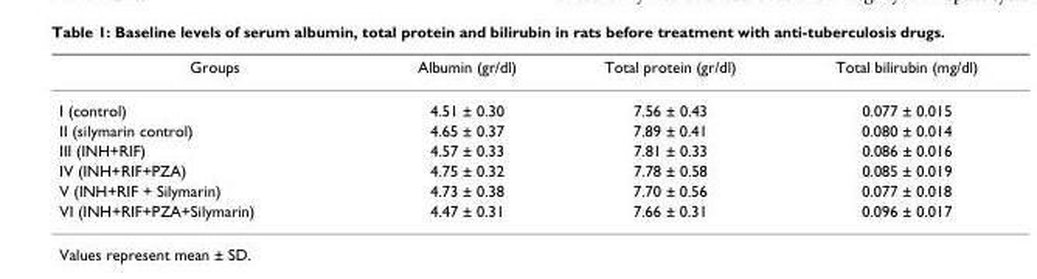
<table><thead><tr><td>Groups</td><td>Albumin (gr/dl)</td><td>Total protein (gr/dl)</td><td>Total bilirubin (mg/dl)</td></tr></thead><tbody><tr><td>I (control)</td><td>4.51 ± 0.30</td><td>7.56 ± 0.43</td><td>0.077 ± 0.015</td></tr><tr><td>II (silymarin control)</td><td>4.65 ± 0.37</td><td>7.89 ± 0.41</td><td>0.080 ± 0.014</td></tr><tr><td>III (INH+RIF)</td><td>4.57 ± 0.33</td><td>7.81 ± 0.33</td><td>0.086 ± 0.016</td></tr><tr><td>IV (INH+RIF+PZA)</td><td>4.75 ± 0.32</td><td>7.78 ± 0.58</td><td>0.085 ± 0.019</td></tr><tr><td>V (INH+RIF + Silymarin)</td><td>4.73 ± 0.38</td><td>7.70 ± 0.56</td><td>0.077 ± 0.018</td></tr><tr><td>VI (INH+RIF+PZA+Silymarin)</td><td>4.47 ± 0.31</td><td>7.66 ± 0.31</td><td>0.096 ± 0.017</td></tr></tbody></table>